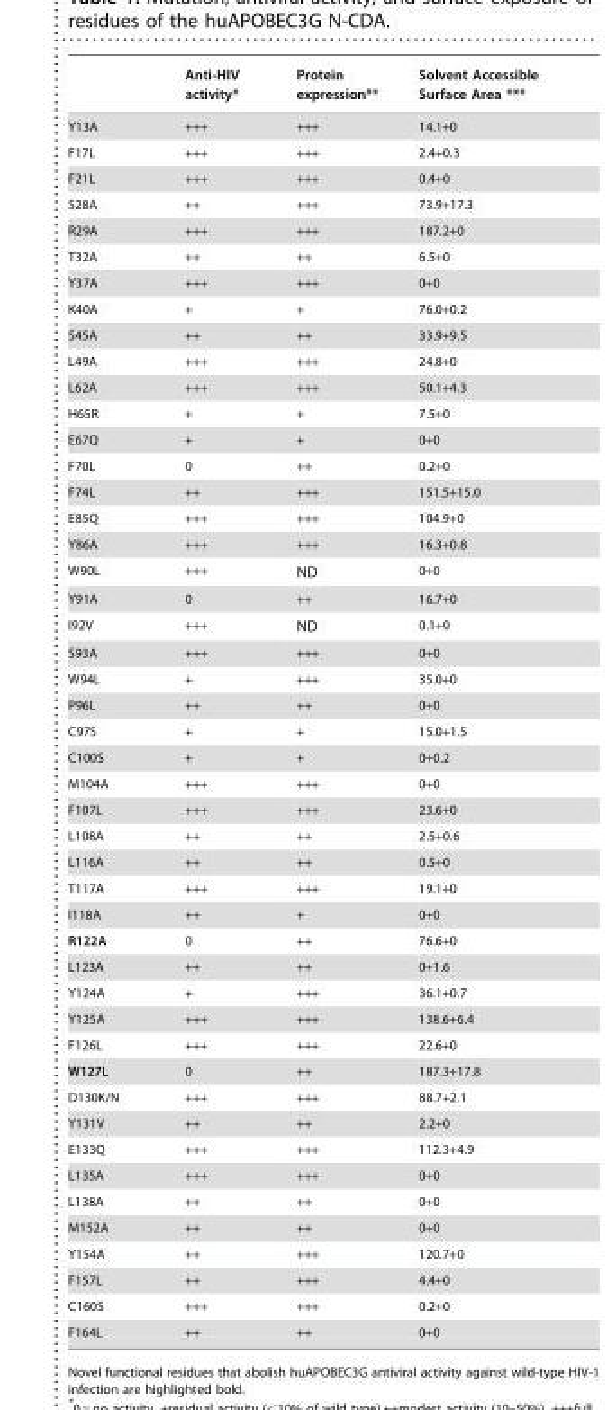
<table><thead><tr><td></td><td>Anti-HIV activity*</td><td>Protein expression**</td><td>Solvent Accessible Surface Area ***</td></tr></thead><tbody><tr><td>Y13A</td><td>+++</td><td>+++</td><td>14.1+0</td></tr><tr><td>F17L</td><td>+++</td><td>+++</td><td>2.4+0.3</td></tr><tr><td>F21L</td><td>+++</td><td>+++</td><td>0.4+0</td></tr><tr><td>S28A</td><td>++</td><td>+++</td><td>73.9+17.3</td></tr><tr><td>R29A</td><td>+++</td><td>+++</td><td>187.2+0</td></tr><tr><td>T32A</td><td>++</td><td>++</td><td>6.5+0</td></tr><tr><td>Y37A</td><td>+++</td><td>+++</td><td>0+0</td></tr><tr><td>K40A</td><td>+</td><td>+</td><td>76.0+0.2</td></tr><tr><td>S45A</td><td>++</td><td>++</td><td>33.9+9.5</td></tr><tr><td>L49A</td><td>+++</td><td>+++</td><td>24.8+0</td></tr><tr><td>L62A</td><td>+++</td><td>+++</td><td>50.1+4.3</td></tr><tr><td>H65R</td><td>+</td><td>+</td><td>7.5+0</td></tr><tr><td>E67Q</td><td>+</td><td>+</td><td>0+0</td></tr><tr><td>F70L</td><td>0</td><td>++</td><td>0.2+0</td></tr><tr><td>F74L</td><td>++</td><td>+++</td><td>151.5+15.0</td></tr><tr><td>E85Q</td><td>+++</td><td>+++</td><td>104.9+0</td></tr><tr><td>Y86A</td><td>+++</td><td>+++</td><td>16.3+0.8</td></tr><tr><td>W90L</td><td>+++</td><td>ND</td><td>0+0</td></tr><tr><td>Y91A</td><td>0</td><td>++</td><td>16.7+0</td></tr><tr><td>I92V</td><td>+++</td><td>ND</td><td>0.1+0</td></tr><tr><td>S93A</td><td>+++</td><td>+++</td><td>0+0</td></tr><tr><td>W94L</td><td>+</td><td>+++</td><td>35.0+0</td></tr><tr><td>P96L</td><td>++</td><td>++</td><td>0+0</td></tr><tr><td>C97S</td><td>+</td><td>+</td><td>15.0+1.5</td></tr><tr><td>C100S</td><td>+</td><td>+</td><td>0+0.2</td></tr><tr><td>M104A</td><td>+++</td><td>+++</td><td>0+0</td></tr><tr><td>F107L</td><td>+++</td><td>+++</td><td>23.6+0</td></tr><tr><td>L108A</td><td>++</td><td>++</td><td>2.5+0.6</td></tr><tr><td>L116A</td><td>++</td><td>++</td><td>0.5+0</td></tr><tr><td>T117A</td><td>+++</td><td>+++</td><td>19.1+0</td></tr><tr><td>I118A</td><td>++</td><td>+</td><td>0+0</td></tr><tr><td>R122A</td><td>0</td><td>++</td><td>76.6+0</td></tr><tr><td>L123A</td><td>++</td><td>++</td><td>0+1.6</td></tr><tr><td>Y124A</td><td>+</td><td>+++</td><td>36.1+0.7</td></tr><tr><td>Y125A</td><td>+++</td><td>+++</td><td>138.6+6.4</td></tr><tr><td>F126L</td><td>+++</td><td>+++</td><td>22.6+0</td></tr><tr><td>W127L</td><td>0</td><td>++</td><td>187.3+17.8</td></tr><tr><td>D130K/N</td><td>+++</td><td>+++</td><td>88.7+2.1</td></tr><tr><td>Y131V</td><td>++</td><td>++</td><td>2.2+0</td></tr><tr><td>E133Q</td><td>+++</td><td>+++</td><td>112.3+4.9</td></tr><tr><td>L135A</td><td>+++</td><td>+++</td><td>0+0</td></tr><tr><td>L138A</td><td>++</td><td>++</td><td>0+0</td></tr><tr><td>M152A</td><td>++</td><td>++</td><td>0+0</td></tr><tr><td>Y154A</td><td>++</td><td>+++</td><td>120.7+0</td></tr><tr><td>F157L</td><td>++</td><td>+++</td><td>4.4+0</td></tr><tr><td>C160S</td><td>+++</td><td>+++</td><td>0.2+0</td></tr><tr><td>F164L</td><td>++</td><td>++</td><td>0+0</td></tr></tbody></table>